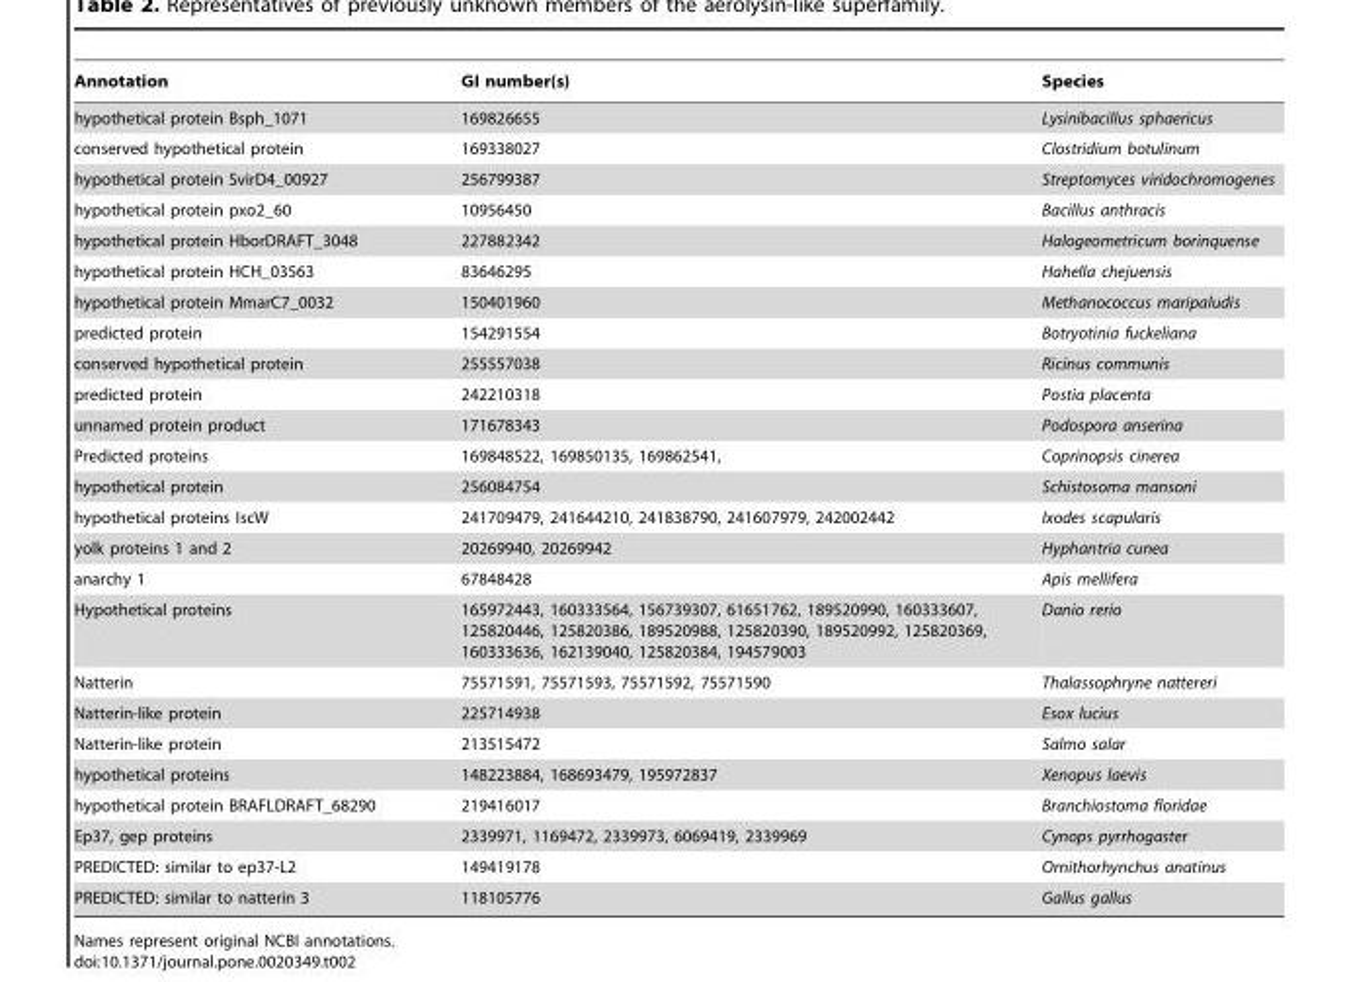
<table><thead><tr><td>Annotation</td><td>GI number(s)</td><td>Species</td></tr></thead><tbody><tr><td>hypothetical protein Bsph_1071</td><td>169826655</td><td>Lysinibacillus sphaericus</td></tr><tr><td>conserved hypothetical protein</td><td>169338027</td><td>Clostridium botulinum</td></tr><tr><td>hypothetical protein SvirD4_00927</td><td>256799387</td><td>Streptomyces viridochromogenes</td></tr><tr><td>hypothetical protein pxo2_60</td><td>10956450</td><td>Bacillus anthracis</td></tr><tr><td>hypothetical protein HborDRAFT_3048</td><td>227882342</td><td>Halogeometricum borinquense</td></tr><tr><td>hypothetical protein HCH_03563</td><td>83646295</td><td>Hahella chejuensis</td></tr><tr><td>hypothetical protein MmarC7_0032</td><td>150401960</td><td>Methanococcus maripaludis</td></tr><tr><td>predicted protein</td><td>154291554</td><td>Botryotinia fuckeliana</td></tr><tr><td>conserved hypothetical protein</td><td>255557038</td><td>Ricinus communis</td></tr><tr><td>predicted protein</td><td>242210318</td><td>Postia placenta</td></tr><tr><td>unnamed protein product</td><td>171678343</td><td>Podospora anserina</td></tr><tr><td>Predicted proteins</td><td>169848522, 169850135, 169862541,</td><td>Coprinopsis cinerea</td></tr><tr><td>hypothetical protein</td><td>256084754</td><td>Schistosoma mansoni</td></tr><tr><td>hypothetical proteins IscW</td><td>241709479, 241644210, 241838790, 241607979, 242002442</td><td>Ixodes scapularis</td></tr><tr><td>yolk proteins 1 and 2</td><td>20269940, 20269942</td><td>Hyphantria cunea</td></tr><tr><td>anarchy 1</td><td>67848428</td><td>Apis mellifera</td></tr><tr><td>Hypothetical proteins</td><td>165972443, 160333564, 156739307, 61651762, 189520990, 160333607, 125820446, 125820386, 189520988, 125820390, 189520992, 125820369, 160333636, 162139040, 125820384, 194579003</td><td>Danio rerio</td></tr><tr><td>Natterin</td><td>75571591, 75571593, 75571592, 75571590</td><td>Thalassophryne nattereri</td></tr><tr><td>Natterin-like protein</td><td>225714938</td><td>Esox lucius</td></tr><tr><td>Natterin-like protein</td><td>213515472</td><td>Salmo salar</td></tr><tr><td>hypothetical proteins</td><td>148223884, 168693479, 195972837</td><td>Xenopus laevis</td></tr><tr><td>hypothetical protein BRAFLDRAFT_68290</td><td>219416017</td><td>Branchiostoma floridae</td></tr><tr><td>Ep37, gep proteins</td><td>2339971, 1169472, 2339973, 6069419, 2339969</td><td>Cynops pyrrhogaster</td></tr><tr><td>PREDICTED: similar to ep37-L2</td><td>149419178</td><td>Ornithorhynchus anatinus</td></tr><tr><td>PREDICTED: similar to natterin 3</td><td>118105776</td><td>Gallus gallus</td></tr></tbody></table>